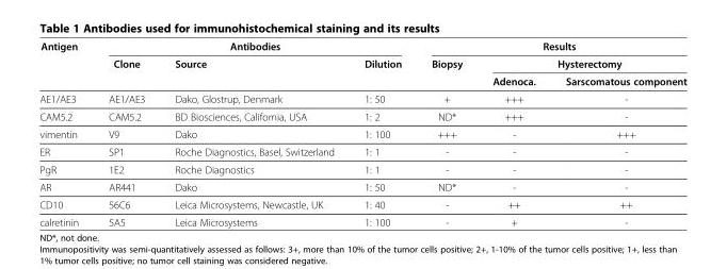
<table><thead><tr><td rowspan="3">Antigen</td><td colspan="3">Antibodies</td><td colspan="3">Results</td></tr><tr><td rowspan="2">Clone</td><td rowspan="2">Source</td><td rowspan="2">Dilution</td><td rowspan="2">Biopsy</td><td colspan="2">Hysterectomy</td></tr><tr><td>Adenoca.</td><td>Sarscomatous component</td></tr></thead><tbody><tr><td>AE1/AE3</td><td>AE1/AE3</td><td>Dako, Glostrup, Denmark</td><td>1: 50</td><td>+</td><td>+++</td><td>-</td></tr><tr><td>CAM5.2</td><td>CAM5.2</td><td>BD Biosciences, California, USA</td><td>1: 2</td><td>ND*</td><td>+++</td><td>-</td></tr><tr><td>vimentin</td><td>V9</td><td>Dako</td><td>1: 100</td><td>+++</td><td>-</td><td>+++</td></tr><tr><td>ER</td><td>SP1</td><td>Roche Diagnostics, Basel, Switzerland</td><td>1: 1</td><td>-</td><td>-</td><td>-</td></tr><tr><td>PgR</td><td>1E2</td><td>Roche Diagnostics</td><td>1: 1</td><td>-</td><td>-</td><td>-</td></tr><tr><td>AR</td><td>AR441</td><td>Dako</td><td>1: 50</td><td>ND*</td><td>-</td><td>-</td></tr><tr><td>CD10</td><td>56C6</td><td>Leica Microsystems, Newcastle, UK</td><td>1: 40</td><td>-</td><td>++</td><td>++</td></tr><tr><td>calretinin</td><td>5A5</td><td>Leica Microsystems</td><td>1: 100</td><td>-</td><td>+</td><td>-</td></tr></tbody></table>